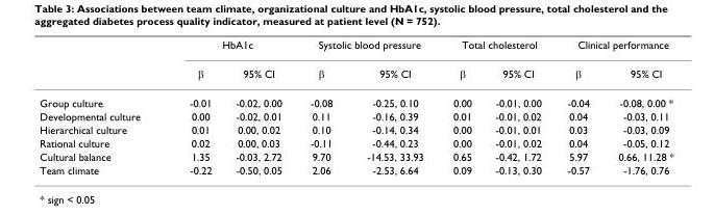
<table><thead><tr><td rowspan="2"></td><td colspan="2">HbA1c</td><td colspan="2">Systolic blood pressure</td><td colspan="2">Total cholesterol</td><td colspan="2">Clinical performance</td></tr><tr><td>β</td><td>95% CI</td><td>β</td><td>95% CI</td><td>β</td><td>95% CI</td><td>β</td><td>95% CI</td></tr></thead><tbody><tr><td>Group culture</td><td>-0.01</td><td>-0.02, 0.00</td><td>-0.08</td><td>-0.25, 0.10</td><td>0.00</td><td>-0.01, 0.00</td><td>-0.04</td><td>-0.08, 0.00 *</td></tr><tr><td>Developmental culture</td><td>0.00</td><td>-0.02, 0.01</td><td>0.11</td><td>-0.16, 0.39</td><td>0.01</td><td>-0.01, 0.02</td><td>0.04</td><td>-0.03, 0.11</td></tr><tr><td>Hierarchical culture</td><td>0.01</td><td>0.00, 0.02</td><td>0.10</td><td>-0.14, 0.34</td><td>0.00</td><td>-0.01, 0.01</td><td>0.03</td><td>-0.03, 0.09</td></tr><tr><td>Rational culture</td><td>0.02</td><td>0.00, 0.03</td><td>-0.11</td><td>-0.44, 0.23</td><td>0.00</td><td>-0.01, 0.02</td><td>0.04</td><td>-0.05, 0.12</td></tr><tr><td>Cultural balance</td><td>1.35</td><td>-0.03, 2.72</td><td>9.70</td><td>-14.53, 33.93</td><td>0.65</td><td>-0.42, 1.72</td><td>5.97</td><td>0.66, 11.28 *</td></tr><tr><td>Team climate</td><td>-0.22</td><td>-0.50, 0.05</td><td>2.06</td><td>-2.53, 6.64</td><td>0.09</td><td>-0.13, 0.30</td><td>-0.57</td><td>-1.76, 0.76</td></tr></tbody></table>